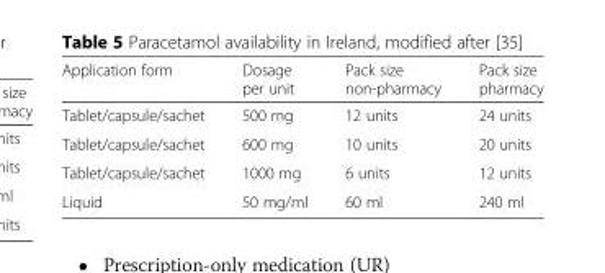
<table><thead><tr><td>Application form</td><td>Dosage per unit</td><td>Pack size non-pharmacy</td><td>Pack size pharmacy</td></tr></thead><tbody><tr><td>Tablet/capsule/sachet</td><td>500 mg</td><td>12 units</td><td>24 units</td></tr><tr><td>Tablet/capsule/sachet</td><td>600 mg</td><td>10 units</td><td>20 units</td></tr><tr><td>Tablet/capsule/sachet</td><td>1000 mg</td><td>6 units</td><td>12 units</td></tr><tr><td>Liquid</td><td>50 mg/ml</td><td>60 ml</td><td>240 ml</td></tr></tbody></table>